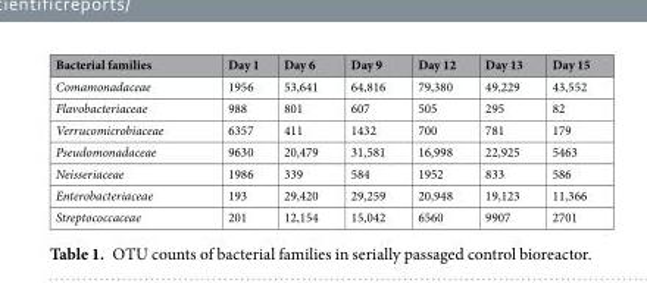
<table><thead><tr><td>Bacterial families</td><td>Day 1</td><td>Day 6</td><td>Day 9</td><td>Day 12</td><td>Day 13</td><td>Day 15</td></tr></thead><tbody><tr><td>Comamonadaceae</td><td>1956</td><td>53,641</td><td>64,816</td><td>79,380</td><td>49,229</td><td>43,552</td></tr><tr><td>Flavobacteriaceae</td><td>988</td><td>801</td><td>607</td><td>505</td><td>295</td><td>82</td></tr><tr><td>Verrucomicrobiaceae</td><td>6357</td><td>411</td><td>1432</td><td>700</td><td>781</td><td>179</td></tr><tr><td>Pseudomonadaceae</td><td>9630</td><td>20,479</td><td>31,581</td><td>16,998</td><td>22,925</td><td>5463</td></tr><tr><td>Neisseriaceae</td><td>1986</td><td>339</td><td>584</td><td>1952</td><td>833</td><td>586</td></tr><tr><td>Enterobacteriaceae</td><td>193</td><td>29,420</td><td>29,259</td><td>20,948</td><td>19,123</td><td>11,366</td></tr><tr><td>Streptococcaceae</td><td>201</td><td>12,154</td><td>15,042</td><td>6560</td><td>9907</td><td>2701</td></tr></tbody></table>